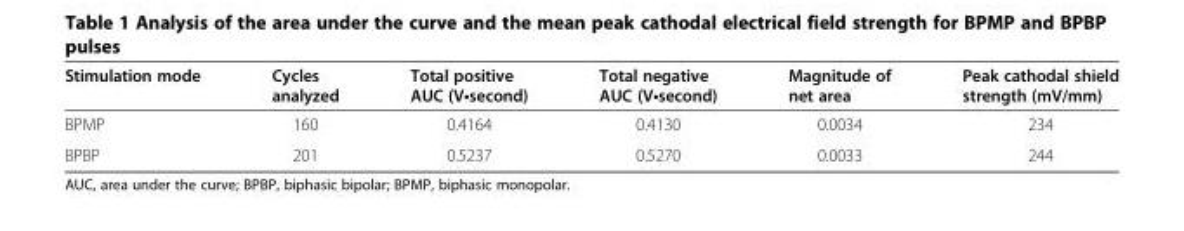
<table><thead><tr><td>Stimulation mode</td><td>Cycles analyzed</td><td>Total positive AUC (V•second)</td><td>Total negative AUC (V•second)</td><td>Magnitude of net area</td><td>Peak cathodal shield strength (mV/mm)</td></tr></thead><tbody><tr><td>BPMP</td><td>160</td><td>0.4164</td><td>0.4130</td><td>0.0034</td><td>234</td></tr><tr><td>BPBP</td><td>201</td><td>0.5237</td><td>0.5270</td><td>0.0033</td><td>244</td></tr></tbody></table>